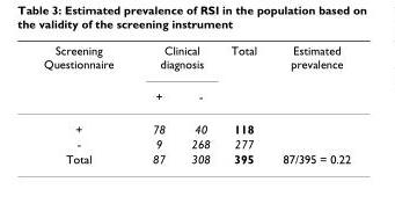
<table><thead><tr><td rowspan="2">Screening Questionnaire</td><td colspan="2">Clinical diagnosis</td><td rowspan="2">Total</td><td rowspan="2">Estimated prevalence</td></tr><tr><td>+</td><td>-</td></tr></thead><tbody><tr><td>+</td><td>78</td><td>40</td><td>118</td><td></td></tr><tr><td>-</td><td>9</td><td>268</td><td>277</td><td></td></tr><tr><td>Total</td><td>87</td><td>308</td><td>395</td><td>87/395 = 0.22</td></tr></tbody></table>